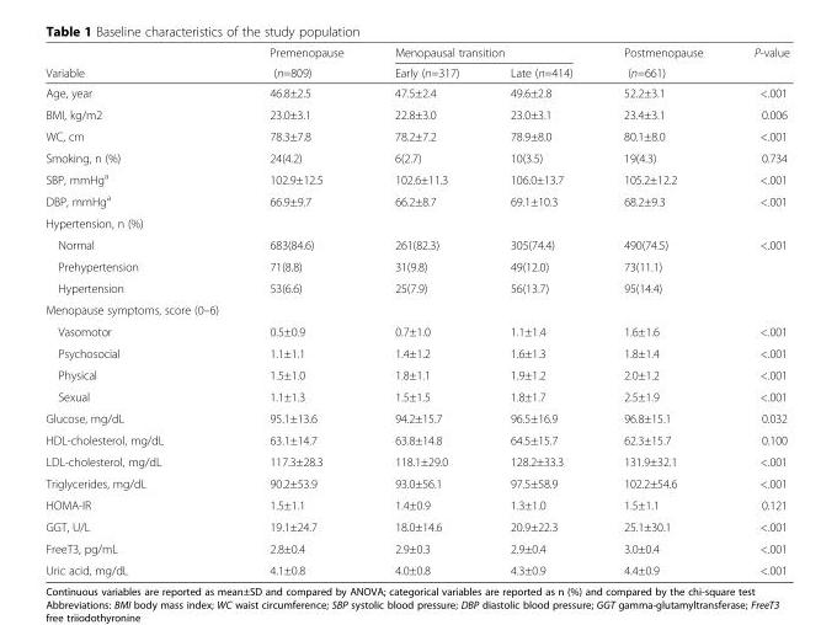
<table><thead><tr><td rowspan="2">Variable</td><td rowspan="2">Premenopause (n=809)</td><td colspan="2">Menopausal transition</td><td rowspan="2">Postmenopause (n=661)</td><td rowspan="2">P-value</td></tr><tr><td>Early (n=317)</td><td>Late (n=414)</td></tr></thead><tbody><tr><td>Age, year</td><td>46.8±2.5</td><td>47.5±2.4</td><td>49.6±2.8</td><td>52.2±3.1</td><td>&lt;.001</td></tr><tr><td>BMI, kg/m2</td><td>23.0±3.1</td><td>22.8±3.0</td><td>23.0±3.1</td><td>23.4±3.1</td><td>0.006</td></tr><tr><td>WC, cm</td><td>78.3±7.8</td><td>78.2±7.2</td><td>78.9±8.0</td><td>80.1±8.0</td><td>&lt;.001</td></tr><tr><td>Smoking, n (%)</td><td>24(4.2)</td><td>6(2.7)</td><td>10(3.5)</td><td>19(4.3)</td><td>0.734</td></tr><tr><td>SBP, mmHg<sup>a</sup></td><td>102.9±12.5</td><td>102.6±11.3</td><td>106.0±13.7</td><td>105.2±12.2</td><td>&lt;.001</td></tr><tr><td>DBP, mmHg<sup>a</sup></td><td>66.9±9.7</td><td>66.2±8.7</td><td>69.1±10.3</td><td>68.2±9.3</td><td>&lt;.001</td></tr><tr><td colspan="6">Hypertension, n (%)</td></tr><tr><td>Normal</td><td>683(84.6)</td><td>261(82.3)</td><td>305(74.4)</td><td>490(74.5)</td><td>&lt;.001</td></tr><tr><td>Prehypertension</td><td>71(8.8)</td><td>31(9.8)</td><td>49(12.0)</td><td>73(11.1)</td><td></td></tr><tr><td>Hypertension</td><td>53(6.6)</td><td>25(7.9)</td><td>56(13.7)</td><td>95(14.4)</td><td></td></tr><tr><td colspan="6">Menopause symptoms, score (0–6)</td></tr><tr><td>Vasomotor</td><td>0.5±0.9</td><td>0.7±1.0</td><td>1.1±1.4</td><td>1.6±1.6</td><td>&lt;.001</td></tr><tr><td>Psychosocial</td><td>1.1±1.1</td><td>1.4±1.2</td><td>1.6±1.3</td><td>1.8±1.4</td><td>&lt;.001</td></tr><tr><td>Physical</td><td>1.5±1.0</td><td>1.8±1.1</td><td>1.9±1.2</td><td>2.0±1.2</td><td>&lt;.001</td></tr><tr><td>Sexual</td><td>1.1±1.3</td><td>1.5±1.5</td><td>1.8±1.7</td><td>2.5±1.9</td><td>&lt;.001</td></tr><tr><td>Glucose, mg/dL</td><td>95.1±13.6</td><td>94.2±15.7</td><td>96.5±16.9</td><td>96.8±15.1</td><td>0.032</td></tr><tr><td>HDL-cholesterol, mg/dL</td><td>63.1±14.7</td><td>63.8±14.8</td><td>64.5±15.7</td><td>62.3±15.7</td><td>0.100</td></tr><tr><td>LDL-cholesterol, mg/dL</td><td>117.3±28.3</td><td>118.1±29.0</td><td>128.2±33.3</td><td>131.9±32.1</td><td>&lt;.001</td></tr><tr><td>Triglycerides, mg/dL</td><td>90.2±53.9</td><td>93.0±56.1</td><td>97.5±58.9</td><td>102.2±54.6</td><td>&lt;.001</td></tr><tr><td>HOMA-IR</td><td>1.5±1.1</td><td>1.4±0.9</td><td>1.3±1.0</td><td>1.5±1.1</td><td>0.121</td></tr><tr><td>GGT, U/L</td><td>19.1±24.7</td><td>18.0±14.6</td><td>20.9±22.3</td><td>25.1±30.1</td><td>&lt;.001</td></tr><tr><td>FreeT3, pg/mL</td><td>2.8±0.4</td><td>2.9±0.3</td><td>2.9±0.4</td><td>3.0±0.4</td><td>&lt;.001</td></tr><tr><td>Uric acid, mg/dL</td><td>4.1±0.8</td><td>4.0±0.8</td><td>4.3±0.9</td><td>4.4±0.9</td><td>&lt;.001</td></tr></tbody></table>